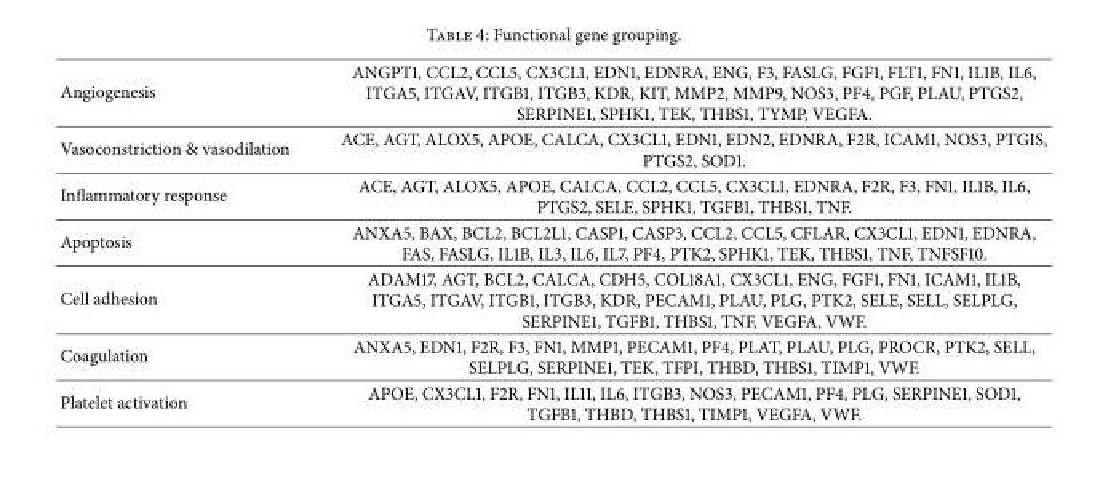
<table><tbody><tr><td>Angiogenesis</td><td>ANGPT1, CCL2, CCL5, CX3CL1, EDN1, EDNRA, ENG, F3, FASLG, FGF1, FLT1, FN1, IL1B, IL6, ITGA5, ITGAV, ITGB1, ITGB3, KDR, KIT, MMP2, MMP9, NOS3, PF4, PGF, PLAU, PTGS2, SERPINE1, SPHK1, TEK, THBS1, TYMP, VEGFA.</td></tr><tr><td>Vasoconstriction &amp; vasodilation</td><td>ACE, AGT, ALOX5, APOE, CALCA, CX3CL1, EDN1, EDN2, EDNRA, F2R, ICAM1, NOS3, PTGIS, PTGS2, SOD1.</td></tr><tr><td>Inflammatory response</td><td>ACE, AGT, ALOX5, APOE, CALCA, CCL2, CCL5, CX3CL1, EDNRA, F2R, F3, FN1, IL1B, IL6, PTGS2, SELE, SPHK1, TGFB1, THBS1, TNF.</td></tr><tr><td>Apoptosis</td><td>ANXA5, BAX, BCL2, BCL2L1, CASP1, CASP3, CCL2, CCL5, CFLAR, CX3CL1, EDN1, EDNRA, FAS, FASLG, IL1B, IL3, IL6, IL7, PF4, PTK2, SPHK1, TEK, THBS1, TNF, TNFSF10.</td></tr><tr><td>Cell adhesion</td><td>ADAM17, AGT, BCL2, CALCA, CDH5, COL18A1, CX3CL1, ENG, FGF1, FN1, ICAM1, IL1B, ITGA5, ITGAV, ITGB1, ITGB3, KDR, PECAM1, PLAU, PLG, PTK2, SELE, SELL, SELPLG, SERPINE1, TGFB1, THBS1, TNF, VEGFA, VWF.</td></tr><tr><td>Coagulation</td><td>ANXA5, EDN1, F2R, F3, FN1, MMP1, PECAM1, PF4, PLAT, PLAU, PLG, PROCR, PTK2, SELL, SELPLG, SERPINE1, TEK, TFPI, THBD, THBS1, TIMP1, VWF.</td></tr><tr><td>Platelet activation</td><td>APOE, CX3CL1, F2R, FN1, IL11, IL6, ITGB3, NOS3, PECAM1, PF4, PLG, SERPINE1, SOD1, TGFB1, THBD, THBS1, TIMP1, VEGFA, VWF.</td></tr></tbody></table>